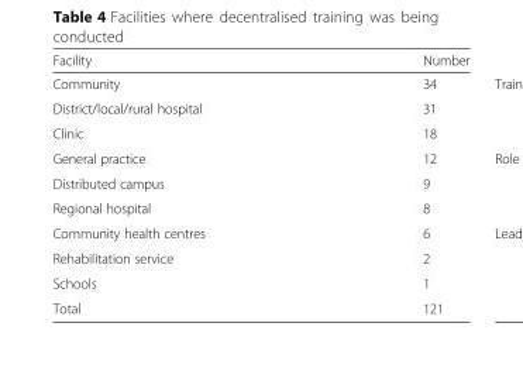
<table><thead><tr><td>Facility</td><td>Number</td></tr></thead><tbody><tr><td>Community</td><td>34</td></tr><tr><td>District/local/rural hospital</td><td>31</td></tr><tr><td>Clinic</td><td>18</td></tr><tr><td>General practice</td><td>12</td></tr><tr><td>Distributed campus</td><td>9</td></tr><tr><td>Regional hospital</td><td>8</td></tr><tr><td>Community health centres</td><td>6</td></tr><tr><td>Rehabilitation service</td><td>2</td></tr><tr><td>Schools</td><td>1</td></tr><tr><td>Total</td><td>121</td></tr></tbody></table>